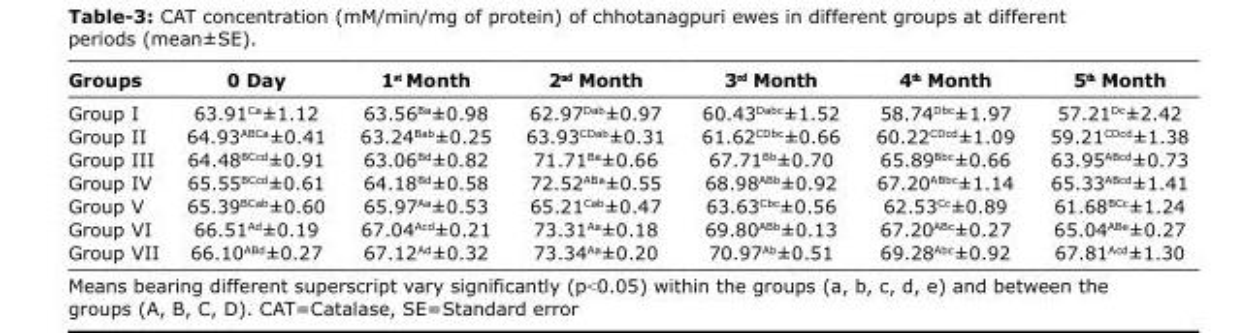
<table><thead><tr><td>Groups</td><td>0 Day</td><td>1<sup>st</sup> Month</td><td>2<sup>nd</sup> Month</td><td>3<sup>rd</sup> Month</td><td>4<sup>th</sup> Month</td><td>5<sup>th</sup> Month</td></tr></thead><tbody><tr><td>Group I</td><td>63.91<sup>Ca</sup>±1.12</td><td>63.56<sup>Ba</sup>±0.98</td><td>62.97<sup>Dab</sup>±0.97</td><td>60.43<sup>Dabc</sup>±1.52</td><td>58.74<sup>Dbc</sup>±1.97</td><td>57.21<sup>Dc</sup>±2.42</td></tr><tr><td>Group II</td><td>64.93<sup>ABCa</sup>±0.41</td><td>63.24<sup>Bab</sup>±0.25</td><td>63.93<sup>CDab</sup>±0.31</td><td>61.62<sup>CDbc</sup>±0.66</td><td>60.22<sup>CDcd</sup>±1.09</td><td>59.21<sup>CDcd</sup>±1.38</td></tr><tr><td>Group III</td><td>64.48<sup>BCcd</sup>±0.91</td><td>63.06<sup>Bd</sup>±0.82</td><td>71.71<sup>Ba</sup>±0.66</td><td>67.71<sup>Bb</sup>±0.70</td><td>65.89<sup>Bbc</sup>±0.66</td><td>63.95<sup>ABcd</sup>±0.73</td></tr><tr><td>Group IV</td><td>65.55<sup>BCcd</sup>±0.61</td><td>64.18<sup>Bd</sup>±0.58</td><td>72.52<sup>ABa</sup>±0.55</td><td>68.98<sup>ABb</sup>±0.92</td><td>67.20<sup>ABbc</sup>±1.14</td><td>65.33<sup>ABcd</sup>±1.41</td></tr><tr><td>Group V</td><td>65.39<sup>BCab</sup>±0.60</td><td>65.97<sup>Aa</sup>±0.53</td><td>65.21<sup>Cab</sup>±0.47</td><td>63.63<sup>Cbc</sup>±0.56</td><td>62.53<sup>Cc</sup>±0.89</td><td>61.68<sup>BCc</sup>±1.24</td></tr><tr><td>Group VI</td><td>66.51<sup>Ad</sup>±0.19</td><td>67.04<sup>Acd</sup>±0.21</td><td>73.31<sup>Aa</sup>±0.18</td><td>69.80<sup>ABb</sup>±0.13</td><td>67.20<sup>ABc</sup>±0.27</td><td>65.04<sup>ABe</sup>±0.27</td></tr><tr><td>Group VII</td><td>66.10<sup>ABd</sup>±0.27</td><td>67.12<sup>Ad</sup>±0.32</td><td>73.34<sup>Aa</sup>±0.20</td><td>70.97<sup>Ab</sup>±0.51</td><td>69.28<sup>Abc</sup>±0.92</td><td>67.81<sup>Acd</sup>±1.30</td></tr></tbody></table>